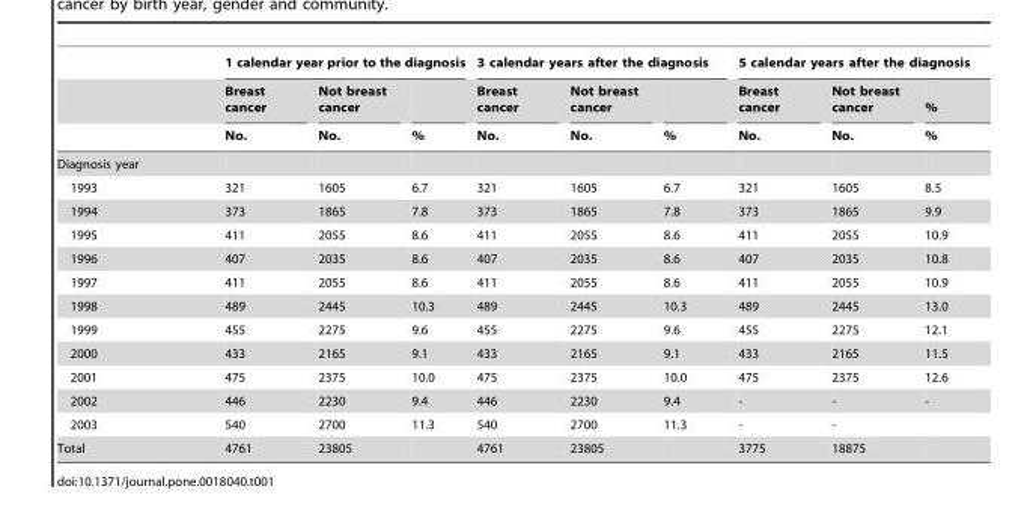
<table><thead><tr><td rowspan="3"></td><td colspan="3">1 calendar year prior to the diagnosis</td><td colspan="3">3 calendar years after the diagnosis</td><td colspan="3">5 calendar years after the diagnosis</td></tr><tr><td rowspan="2">Breast cancer No.</td><td rowspan="2">Not breast cancer No.</td><td rowspan="2">%</td><td rowspan="2">Breast cancer No.</td><td rowspan="2">Not breast cancer No.</td><td rowspan="2">%</td><td rowspan="2">Breast cancer No.</td><td rowspan="2">Not breast cancer No.</td><td rowspan="2">% %</td></tr><tr></tr></thead><tbody><tr><td colspan="10">Diagnosis year</td></tr><tr><td>1993</td><td>321</td><td>1605</td><td>6.7</td><td>321</td><td>1605</td><td>6.7</td><td>321</td><td>1605</td><td>8.5</td></tr><tr><td>1994</td><td>373</td><td>1865</td><td>7.8</td><td>373</td><td>1865</td><td>7.8</td><td>373</td><td>1865</td><td>9.9</td></tr><tr><td>1995</td><td>411</td><td>2055</td><td>8.6</td><td>411</td><td>2055</td><td>8.6</td><td>411</td><td>2055</td><td>10.9</td></tr><tr><td>1996</td><td>407</td><td>2035</td><td>8.6</td><td>407</td><td>2035</td><td>8.6</td><td>407</td><td>2035</td><td>10.8</td></tr><tr><td>1997</td><td>411</td><td>2055</td><td>8.6</td><td>411</td><td>2055</td><td>8.6</td><td>411</td><td>2055</td><td>10.9</td></tr><tr><td>1998</td><td>489</td><td>2445</td><td>10.3</td><td>489</td><td>2445</td><td>10.3</td><td>489</td><td>2445</td><td>13.0</td></tr><tr><td>1999</td><td>455</td><td>2275</td><td>9.6</td><td>455</td><td>2275</td><td>9.6</td><td>455</td><td>2275</td><td>12.1</td></tr><tr><td>2000</td><td>433</td><td>2165</td><td>9.1</td><td>433</td><td>2165</td><td>9.1</td><td>433</td><td>2165</td><td>11.5</td></tr><tr><td>2001</td><td>475</td><td>2375</td><td>10.0</td><td>475</td><td>2375</td><td>10.0</td><td>475</td><td>2375</td><td>12.6</td></tr><tr><td>2002</td><td>446</td><td>2230</td><td>9.4</td><td>446</td><td>2230</td><td>9.4</td><td>-</td><td>-</td><td>-</td></tr><tr><td>2003</td><td>540</td><td>2700</td><td>11.3</td><td>540</td><td>2700</td><td>11.3</td><td>-</td><td>-</td><td></td></tr><tr><td>Total</td><td>4761</td><td>23805</td><td></td><td>4761</td><td>23805</td><td></td><td>3775</td><td>18875</td><td></td></tr></tbody></table>